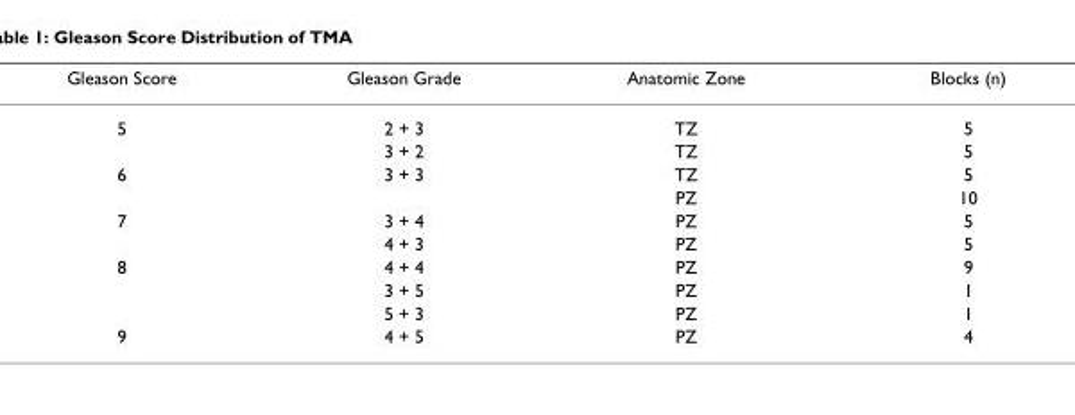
<table><thead><tr><td>Gleason Score</td><td>Gleason Grade</td><td>Anatomic Zone</td><td>Blocks (n)</td></tr></thead><tbody><tr><td rowspan="2">5</td><td>2 + 3</td><td>TZ</td><td>5</td></tr><tr><td>3 + 2</td><td>TZ</td><td>5</td></tr><tr><td rowspan="2">6</td><td>3 + 3</td><td>TZ</td><td>5</td></tr><tr><td></td><td>PZ</td><td>10</td></tr><tr><td rowspan="2">7</td><td>3 + 4</td><td>PZ</td><td>5</td></tr><tr><td>4 + 3</td><td>PZ</td><td>5</td></tr><tr><td rowspan="3">8</td><td>4 + 4</td><td>PZ</td><td>9</td></tr><tr><td>3 + 5</td><td>PZ</td><td>1</td></tr><tr><td>5 + 3</td><td>PZ</td><td>1</td></tr><tr><td>9</td><td>4 + 5</td><td>PZ</td><td>4</td></tr></tbody></table>